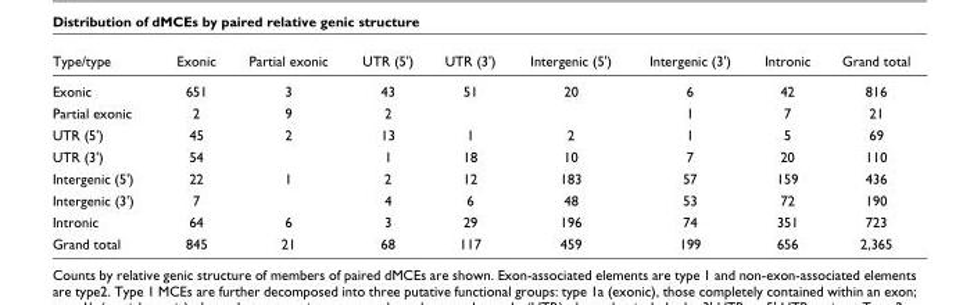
<table><thead><tr><td>Type/type</td><td>Exonic</td><td>Partial exonic</td><td>UTR (5&#x27;)</td><td>UTR (3&#x27;)</td><td>Intergenic (5&#x27;)</td><td>Intergenic (3&#x27;)</td><td>Intronic</td><td>Grand total</td></tr></thead><tbody><tr><td>Exonic</td><td>651</td><td>3</td><td>43</td><td>51</td><td>20</td><td>6</td><td>42</td><td>816</td></tr><tr><td>Partial exonic</td><td>2</td><td>9</td><td>2</td><td></td><td></td><td>1</td><td>7</td><td>21</td></tr><tr><td>UTR (5&#x27;)</td><td>45</td><td>2</td><td>13</td><td>1</td><td>2</td><td>1</td><td>5</td><td>69</td></tr><tr><td>UTR (3&#x27;)</td><td>54</td><td></td><td>1</td><td>18</td><td>10</td><td>7</td><td>20</td><td>110</td></tr><tr><td>Intergenic (5&#x27;)</td><td>22</td><td>1</td><td>2</td><td>12</td><td>183</td><td>57</td><td>159</td><td>436</td></tr><tr><td>Intergenic (3&#x27;)</td><td>7</td><td></td><td>4</td><td>6</td><td>48</td><td>53</td><td>72</td><td>190</td></tr><tr><td>Intronic</td><td>64</td><td>6</td><td>3</td><td>29</td><td>196</td><td>74</td><td>351</td><td>723</td></tr><tr><td>Grand total</td><td>845</td><td>21</td><td>68</td><td>117</td><td>459</td><td>199</td><td>656</td><td>2,365</td></tr></tbody></table>